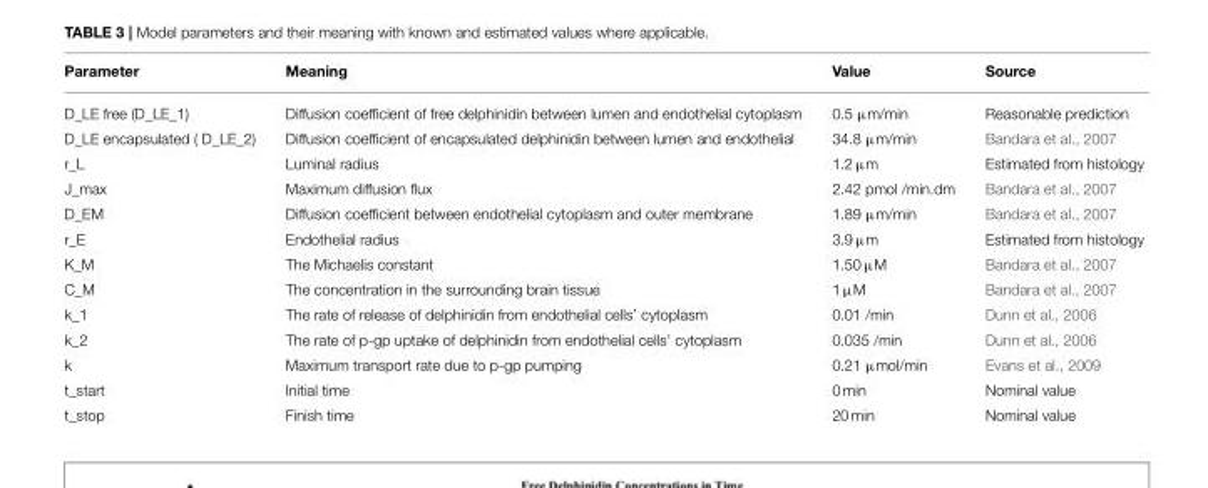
<table><thead><tr><td>Parameter</td><td>Meaning</td><td>Value</td><td>Source</td></tr></thead><tbody><tr><td>D_LE free (D_LE_1)</td><td>Diffusion coefficient of free delphinidin between lumen and endothelial cytoplasm</td><td>0.5 µm/min</td><td>Reasonable prediction</td></tr><tr><td>D_LE encapsulated ( D_LE_2)</td><td>Diffusion coefficient of encapsulated delphinidin between lumen and endothelial</td><td>34.8 µm/min</td><td>Bandara et al., 2007</td></tr><tr><td>r_L</td><td>Luminal radius</td><td>1.2 µm</td><td>Estimated from histology</td></tr><tr><td>J_max</td><td>Maximum diffusion flux</td><td>2.42 pmol /min.dm</td><td>Bandara et al., 2007</td></tr><tr><td>D_EM</td><td>Diffusion coefficient between endothelial cytoplasm and outer membrane</td><td>1.89 µm/min</td><td>Bandara et al., 2007</td></tr><tr><td>r_E</td><td>Endothelial radius</td><td>3.9 µm</td><td>Estimated from histology</td></tr><tr><td>K_M</td><td>The Michaelis constant</td><td>1.50 µM</td><td>Bandara et al., 2007</td></tr><tr><td>C_M</td><td>The concentration in the surrounding brain tissue</td><td>1 µM</td><td>Bandara et al., 2007</td></tr><tr><td>k_1</td><td>The rate of release of delphinidin from endothelial cells’ cytoplasm</td><td>0.01 /min</td><td>Dunn et al., 2006</td></tr><tr><td>k_2</td><td>The rate of p-gp uptake of delphinidin from endothelial cells’ cytoplasm</td><td>0.035 /min</td><td>Dunn et al., 2006</td></tr><tr><td>k</td><td>Maximum transport rate due to p-gp pumping</td><td>0.21 µmol/min</td><td>Evans et al., 2009</td></tr><tr><td>t_start</td><td>Initial time</td><td>0 min</td><td>Nominal value</td></tr><tr><td>t_stop</td><td>Finish time</td><td>20 min</td><td>Nominal value</td></tr></tbody></table>